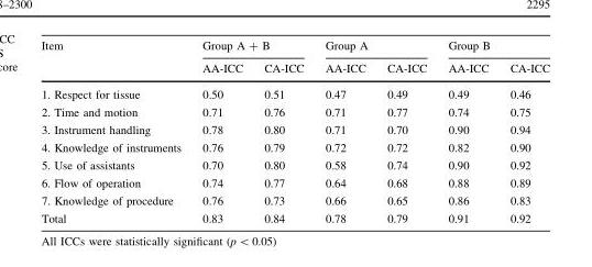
<table><thead><tr><td rowspan="2">Item</td><td colspan="2">Group A + B</td><td colspan="2">Group A</td><td colspan="2">Group B</td></tr><tr><td>AA-ICC</td><td>CA-ICC</td><td>AA-ICC</td><td>CA-ICC</td><td>AA-ICC</td><td>CA-ICC</td></tr></thead><tbody><tr><td>1. Respect for tissue</td><td>0.50</td><td>0.51</td><td>0.47</td><td>0.49</td><td>0.49</td><td>0.46</td></tr><tr><td>2. Time and motion</td><td>0.71</td><td>0.76</td><td>0.71</td><td>0.77</td><td>0.74</td><td>0.75</td></tr><tr><td>3. Instrument handling</td><td>0.78</td><td>0.80</td><td>0.71</td><td>0.70</td><td>0.90</td><td>0.94</td></tr><tr><td>4. Knowledge of instruments</td><td>0.76</td><td>0.79</td><td>0.72</td><td>0.72</td><td>0.82</td><td>0.90</td></tr><tr><td>5. Use of assistants</td><td>0.70</td><td>0.80</td><td>0.58</td><td>0.74</td><td>0.90</td><td>0.92</td></tr><tr><td>6. Flow of operation</td><td>0.74</td><td>0.77</td><td>0.64</td><td>0.68</td><td>0.88</td><td>0.89</td></tr><tr><td>7. Knowledge of procedure</td><td>0.76</td><td>0.73</td><td>0.66</td><td>0.65</td><td>0.86</td><td>0.83</td></tr><tr><td>Total</td><td>0.83</td><td>0.84</td><td>0.78</td><td>0.79</td><td>0.91</td><td>0.92</td></tr></tbody></table>